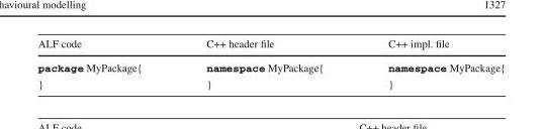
<table><thead><tr><td>ALF code</td><td>C++ header file</td><td>C++ impl. file</td></tr></thead><tbody><tr><td>package MyPackage{</td><td>namespace MyPackage{</td><td>namespace MyPackage{</td></tr><tr><td>}</td><td>}</td><td>}</td></tr></tbody></table>